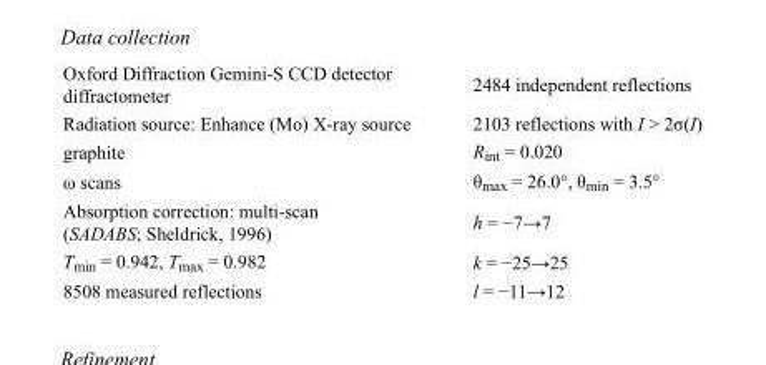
<table><tbody><tr><td>Oxford Diffraction Gemini-S CCD detector diffractometer</td><td>2484 independent reflections</td></tr><tr><td>Radiation source: Enhance (Mo) X-ray source</td><td>2103 reflections with I &gt; 2σ(I)</td></tr><tr><td>graphite</td><td>R<sub>int</sub> = 0.020</td></tr><tr><td>ω scans</td><td>θ<sub>max</sub> = 26.0°, θ<sub>min</sub> = 3.5°</td></tr><tr><td>Absorption correction: multi-scan (SADABS; Sheldrick, 1996)</td><td>h = −7→7</td></tr><tr><td>T<sub>min</sub> = 0.942, T<sub>max</sub> = 0.982</td><td>k = −25→25</td></tr><tr><td>8508 measured reflections</td><td>l = −11→12</td></tr></tbody></table>